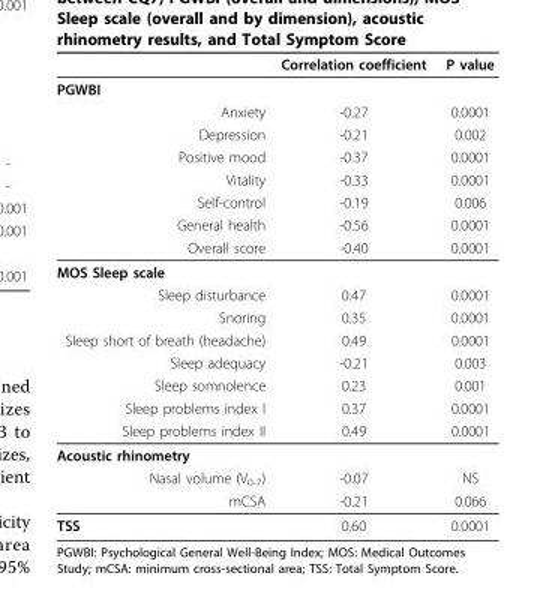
<table><thead><tr><td></td><td>Correlation coefficient</td><td>P value</td></tr></thead><tbody><tr><td colspan="3">PGWBI</td></tr><tr><td>Anxiety</td><td>-0.27</td><td>0.0001</td></tr><tr><td>Depression</td><td>-0.21</td><td>0.002</td></tr><tr><td>Positive mood</td><td>-0.37</td><td>0.0001</td></tr><tr><td>Vitality</td><td>-0.33</td><td>0.0001</td></tr><tr><td>Self-control</td><td>-0.19</td><td>0.006</td></tr><tr><td>General health</td><td>-0.56</td><td>0.0001</td></tr><tr><td>Overall score</td><td>-0.40</td><td>0.0001</td></tr><tr><td colspan="3">MOS Sleep scale</td></tr><tr><td>Sleep disturbance</td><td>0.47</td><td>0.0001</td></tr><tr><td>Snoring</td><td>0.35</td><td>0.0001</td></tr><tr><td>Sleep short of breath (headache)</td><td>0.49</td><td>0.0001</td></tr><tr><td>Sleep adequacy</td><td>-0.21</td><td>0.003</td></tr><tr><td>Sleep somnolence</td><td>0.23</td><td>0.001</td></tr><tr><td>Sleep problems index I</td><td>0.37</td><td>0.0001</td></tr><tr><td>Sleep problems index II</td><td>0.49</td><td>0.0001</td></tr><tr><td colspan="3">Acoustic rhinometry</td></tr><tr><td>Nasal volume (V<sub>0-7</sub>)</td><td>-0.07</td><td>NS</td></tr><tr><td>mCSA</td><td>-0.21</td><td>0.066</td></tr><tr><td>TSS</td><td>0.60</td><td>0.0001</td></tr></tbody></table>